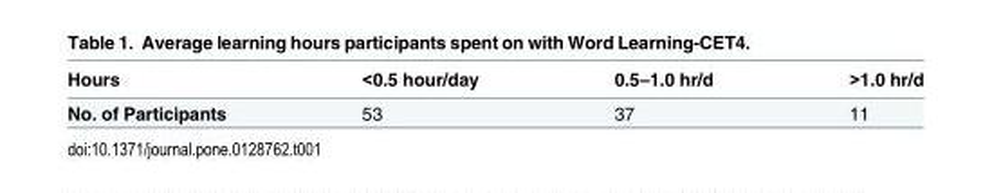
<table><thead><tr><td>Hours</td><td>&lt;0.5 hour/day</td><td>0.5–1.0 hr/d</td><td>&gt;1.0 hr/d</td></tr></thead><tbody><tr><td>No. of Participants</td><td>53</td><td>37</td><td>11</td></tr></tbody></table>